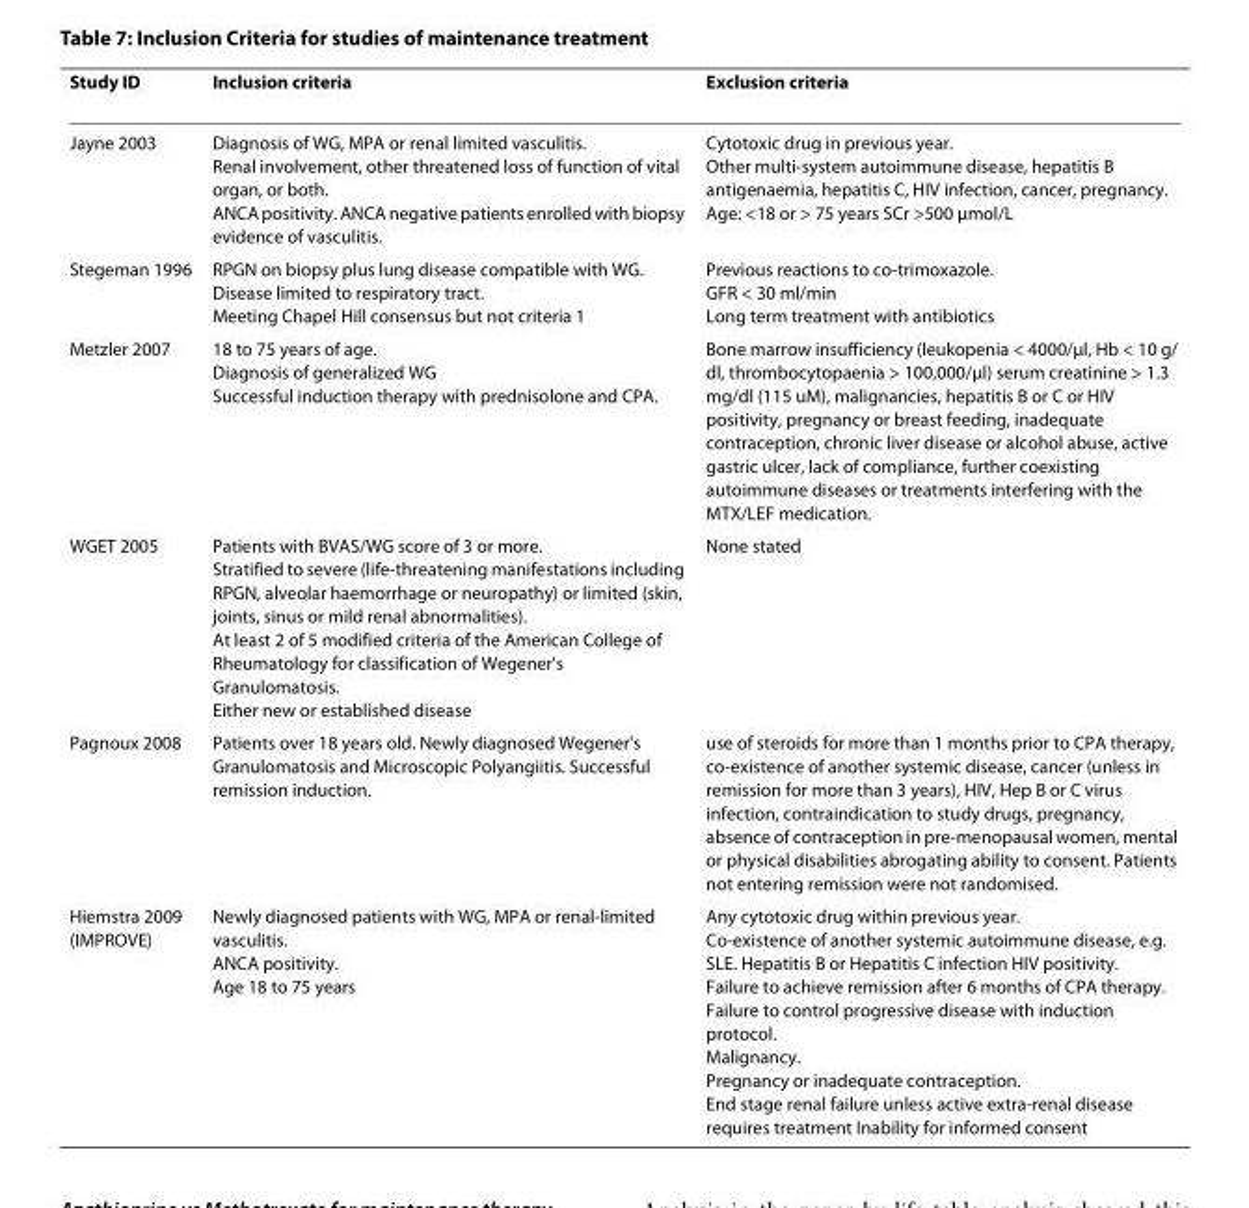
<table><thead><tr><td>Study ID</td><td>Inclusion criteria</td><td>Exclusion criteria</td></tr></thead><tbody><tr><td>Jayne 2003</td><td>Diagnosis of WG, MPA or renal limited vasculitis. Renal involvement, other threatened loss of function of vital organ, or both. ANCA positivity. ANCA negative patients enrolled with biopsy evidence of vasculitis.</td><td>Cytotoxic drug in previous year. Other multi-system autoimmune disease, hepatitis B antigenaemia, hepatitis C, HIV infection, cancer, pregnancy. Age: &lt;18 or &gt; 75 years SCr &gt;500 μmol/L</td></tr><tr><td>Stegeman 1996</td><td>RPGN on biopsy plus lung disease compatible with WG. Disease limited to respiratory tract. Meeting Chapel Hill consensus but not criteria 1</td><td>Previous reactions to co-trimoxazole. GFR &lt; 30 ml/min Long term treatment with antibiotics</td></tr><tr><td>Metzler 2007</td><td>18 to 75 years of age. Diagnosis of generalized WG Successful induction therapy with prednisolone and CPA.</td><td>Bone marrow insufficiency (leukopenia &lt; 4000/μl, Hb &lt; 10 g/ dl, thrombocytopaenia &gt; 100,000/μl) serum creatinine &gt; 1.3 mg/dl (115 uM), malignancies, hepatitis B or C or HIV positivity, pregnancy or breast feeding, inadequate contraception, chronic liver disease or alcohol abuse, active gastric ulcer, lack of compliance, further coexisting autoimmune diseases or treatments interfering with the MTX/LEF medication.</td></tr><tr><td>WGET 2005</td><td>Patients with BVAS/WG score of 3 or more. Stratified to severe (life-threatening manifestations including RPGN, alveolar haemorrhage or neuropathy) or limited (skin, joints, sinus or mild renal abnormalities). At least 2 of 5 modified criteria of the American College of Rheumatology for classification of Wegener&#x27;s Granulomatosis. Either new or established disease</td><td>None stated</td></tr><tr><td>Pagnoux 2008</td><td>Patients over 18 years old. Newly diagnosed Wegener&#x27;s Granulomatosis and Microscopic Polyangiitis. Successful remission induction.</td><td>use of steroids for more than 1 months prior to CPA therapy, co-existence of another systemic disease, cancer (unless in remission for more than 3 years), HIV, Hep B or C virus infection, contraindication to study drugs, pregnancy, absence of contraception in pre-menopausal women, mental or physical disabilities abrogating ability to consent. Patients not entering remission were not randomised.</td></tr><tr><td>Hiemstra 2009 (IMPROVE)</td><td>Newly diagnosed patients with WG, MPA or renal-limited vasculitis. ANCA positivity. Age 18 to 75 years</td><td>Any cytotoxic drug within previous year. Co-existence of another systemic autoimmune disease, e.g. SLE. Hepatitis B or Hepatitis C infection HIV positivity. Failure to achieve remission after 6 months of CPA therapy. Failure to control progressive disease with induction protocol. Malignancy. Pregnancy or inadequate contraception. End stage renal failure unless active extra-renal disease requires treatment Inability for informed consent</td></tr></tbody></table>